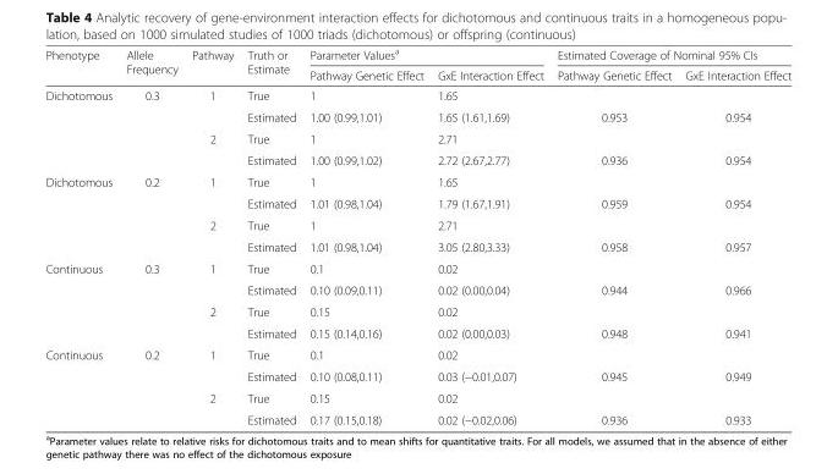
<table><thead><tr><td rowspan="2">Phenotype</td><td rowspan="2">Allele Frequency</td><td rowspan="2">Pathway</td><td rowspan="2">Truth or Estimate</td><td colspan="2">Parameter Values<sup>a</sup></td><td colspan="2">Estimated Coverage of Nominal 95% CIs</td></tr><tr><td>Pathway Genetic Effect</td><td>GxE Interaction Effect</td><td>Pathway Genetic Effect</td><td>GxE Interaction Effect</td></tr></thead><tbody><tr><td rowspan="4">Dichotomous</td><td rowspan="4">0.3</td><td rowspan="2">1</td><td>True</td><td>1</td><td>1.65</td><td></td><td></td></tr><tr><td>Estimated</td><td>1.00 (0.99,1.01)</td><td>1.65 (1.61,1.69)</td><td>0.953</td><td>0.954</td></tr><tr><td rowspan="2">2</td><td>True</td><td>1</td><td>2.71</td><td></td><td></td></tr><tr><td>Estimated</td><td>1.00 (0.99,1.02)</td><td>2.72 (2.67,2.77)</td><td>0.936</td><td>0.954</td></tr><tr><td rowspan="4">Dichotomous</td><td rowspan="4">0.2</td><td rowspan="2">1</td><td>True</td><td>1</td><td>1.65</td><td></td><td></td></tr><tr><td>Estimated</td><td>1.01 (0.98,1.04)</td><td>1.79 (1.67,1.91)</td><td>0.959</td><td>0.954</td></tr><tr><td rowspan="2">2</td><td>True</td><td>1</td><td>2.71</td><td></td><td></td></tr><tr><td>Estimated</td><td>1.01 (0.98,1.04)</td><td>3.05 (2.80,3.33)</td><td>0.958</td><td>0.957</td></tr><tr><td rowspan="4">Continuous</td><td rowspan="4">0.3</td><td rowspan="2">1</td><td>True</td><td>0.1</td><td>0.02</td><td></td><td></td></tr><tr><td>Estimated</td><td>0.10 (0.09,0.11)</td><td>0.02 (0.00,0.04)</td><td>0.944</td><td>0.966</td></tr><tr><td rowspan="2">2</td><td>True</td><td>0.15</td><td>0.02</td><td></td><td></td></tr><tr><td>Estimated</td><td>0.15 (0.14,0.16)</td><td>0.02 (0.00,0.03)</td><td>0.948</td><td>0.941</td></tr><tr><td rowspan="4">Continuous</td><td rowspan="4">0.2</td><td rowspan="2">1</td><td>True</td><td>0.1</td><td>0.02</td><td></td><td></td></tr><tr><td>Estimated</td><td>0.10 (0.08,0.11)</td><td>0.03 (−0.01,0.07)</td><td>0.945</td><td>0.949</td></tr><tr><td rowspan="2">2</td><td>True</td><td>0.15</td><td>0.02</td><td></td><td></td></tr><tr><td>Estimated</td><td>0.17 (0.15,0.18)</td><td>0.02 (−0.02,0.06)</td><td>0.936</td><td>0.933</td></tr></tbody></table>